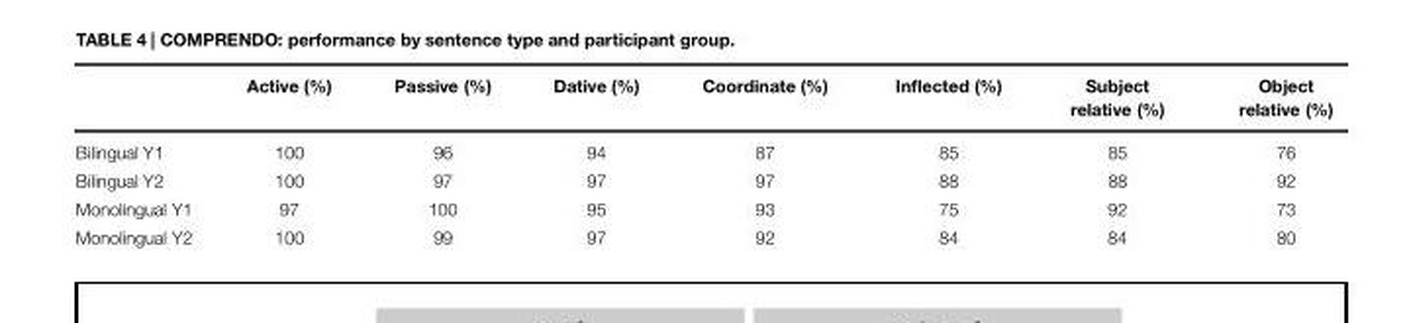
<table><thead><tr><td></td><td>Active (%)</td><td>Passive (%)</td><td>Dative (%)</td><td>Coordinate (%)</td><td>Inflected (%)</td><td>Subject relative (%)</td><td>Object relative (%)</td></tr></thead><tbody><tr><td>Bilingual Y1</td><td>100</td><td>96</td><td>94</td><td>87</td><td>85</td><td>85</td><td>76</td></tr><tr><td>Bilingual Y2</td><td>100</td><td>97</td><td>97</td><td>97</td><td>88</td><td>88</td><td>92</td></tr><tr><td>Monolingual Y1</td><td>97</td><td>100</td><td>95</td><td>93</td><td>75</td><td>92</td><td>73</td></tr><tr><td>Monolingual Y2</td><td>100</td><td>99</td><td>97</td><td>92</td><td>84</td><td>84</td><td>80</td></tr></tbody></table>